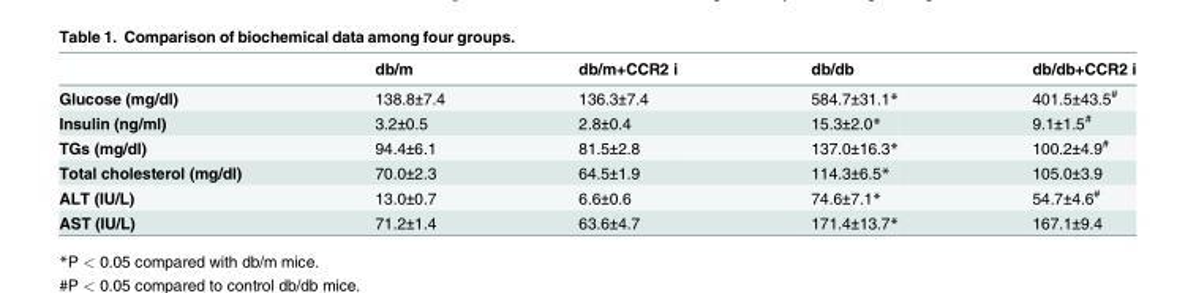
<table><thead><tr><td></td><td>db/m</td><td>db/m+CCR2 i</td><td>db/db</td><td>db/db+CCR2 i</td></tr></thead><tbody><tr><td>Glucose (mg/dl)</td><td>138.8±7.4</td><td>136.3±7.4</td><td>584.7±31.1*</td><td>401.5±43.5<sup>#</sup></td></tr><tr><td>Insulin (ng/ml)</td><td>3.2±0.5</td><td>2.8±0.4</td><td>15.3±2.0*</td><td>9.1±1.5<sup>#</sup></td></tr><tr><td>TGs (mg/dl)</td><td>94.4±6.1</td><td>81.5±2.8</td><td>137.0±16.3*</td><td>100.2±4.9<sup>#</sup></td></tr><tr><td>Total cholesterol (mg/dl)</td><td>70.0±2.3</td><td>64.5±1.9</td><td>114.3±6.5*</td><td>105.0±3.9</td></tr><tr><td>ALT (IU/L)</td><td>13.0±0.7</td><td>6.6±0.6</td><td>74.6±7.1*</td><td>54.7±4.6<sup>#</sup></td></tr><tr><td>AST (IU/L)</td><td>71.2±1.4</td><td>63.6±4.7</td><td>171.4±13.7*</td><td>167.1±9.4</td></tr></tbody></table>